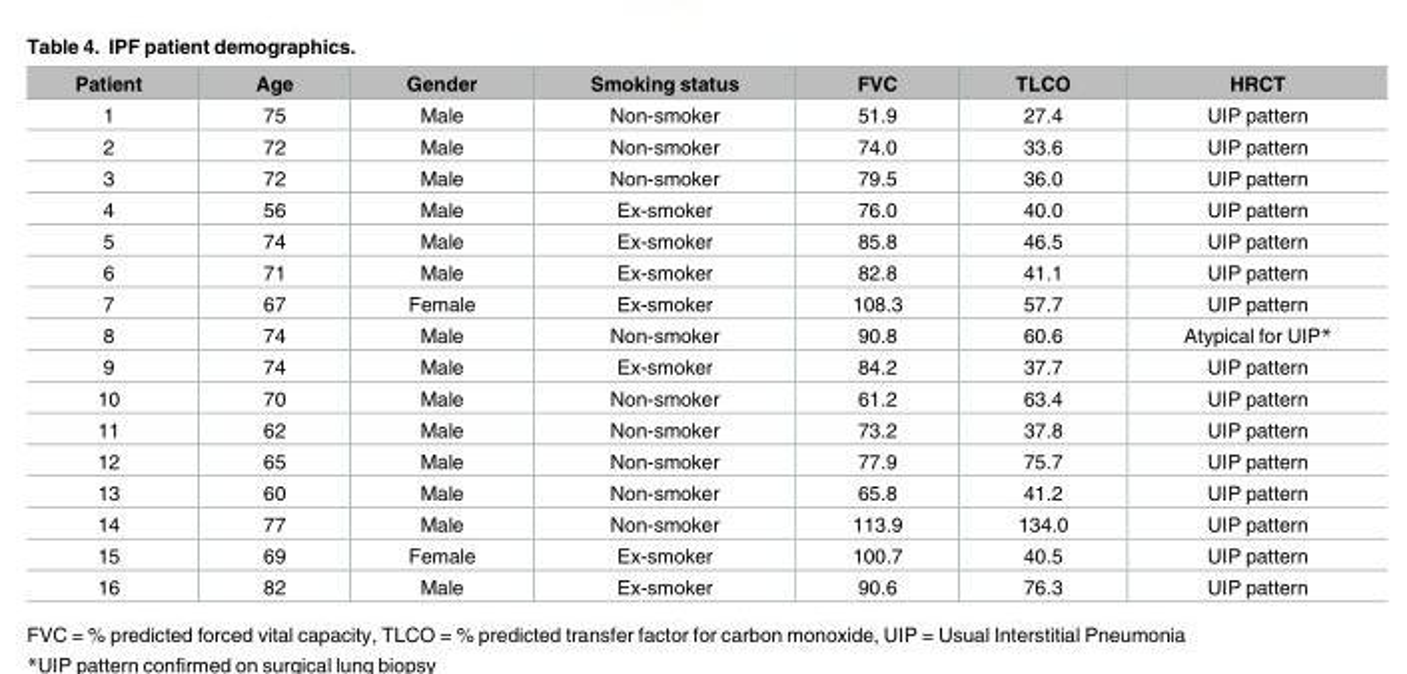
<table><thead><tr><td>Patient</td><td>Age</td><td>Gender</td><td>Smoking status</td><td>FVC</td><td>TLCO</td><td>HRCT</td></tr></thead><tbody><tr><td>1</td><td>75</td><td>Male</td><td>Non-smoker</td><td>51.9</td><td>27.4</td><td>UIP pattern</td></tr><tr><td>2</td><td>72</td><td>Male</td><td>Non-smoker</td><td>74.0</td><td>33.6</td><td>UIP pattern</td></tr><tr><td>3</td><td>72</td><td>Male</td><td>Non-smoker</td><td>79.5</td><td>36.0</td><td>UIP pattern</td></tr><tr><td>4</td><td>56</td><td>Male</td><td>Ex-smoker</td><td>76.0</td><td>40.0</td><td>UIP pattern</td></tr><tr><td>5</td><td>74</td><td>Male</td><td>Ex-smoker</td><td>85.8</td><td>46.5</td><td>UIP pattern</td></tr><tr><td>6</td><td>71</td><td>Male</td><td>Ex-smoker</td><td>82.8</td><td>41.1</td><td>UIP pattern</td></tr><tr><td>7</td><td>67</td><td>Female</td><td>Ex-smoker</td><td>108.3</td><td>57.7</td><td>UIP pattern</td></tr><tr><td>8</td><td>74</td><td>Male</td><td>Non-smoker</td><td>90.8</td><td>60.6</td><td>Atypical for UIP*</td></tr><tr><td>9</td><td>74</td><td>Male</td><td>Ex-smoker</td><td>84.2</td><td>37.7</td><td>UIP pattern</td></tr><tr><td>10</td><td>70</td><td>Male</td><td>Non-smoker</td><td>61.2</td><td>63.4</td><td>UIP pattern</td></tr><tr><td>11</td><td>62</td><td>Male</td><td>Non-smoker</td><td>73.2</td><td>37.8</td><td>UIP pattern</td></tr><tr><td>12</td><td>65</td><td>Male</td><td>Non-smoker</td><td>77.9</td><td>75.7</td><td>UIP pattern</td></tr><tr><td>13</td><td>60</td><td>Male</td><td>Non-smoker</td><td>65.8</td><td>41.2</td><td>UIP pattern</td></tr><tr><td>14</td><td>77</td><td>Male</td><td>Non-smoker</td><td>113.9</td><td>134.0</td><td>UIP pattern</td></tr><tr><td>15</td><td>69</td><td>Female</td><td>Ex-smoker</td><td>100.7</td><td>40.5</td><td>UIP pattern</td></tr><tr><td>16</td><td>82</td><td>Male</td><td>Ex-smoker</td><td>90.6</td><td>76.3</td><td>UIP pattern</td></tr></tbody></table>